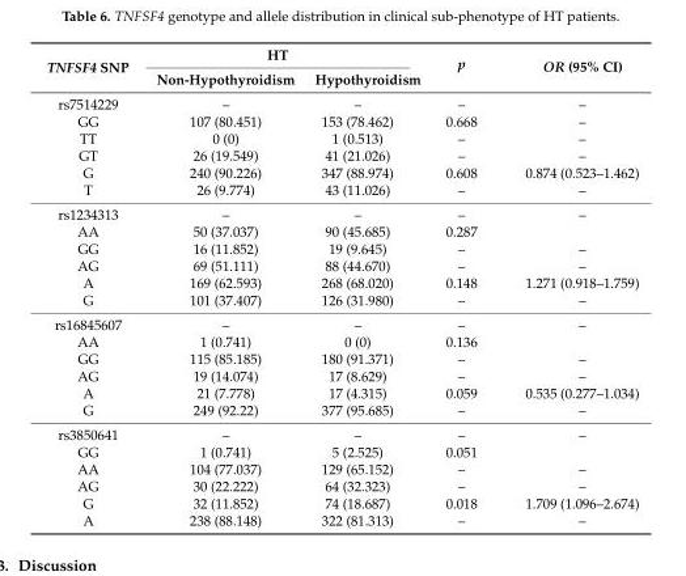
<table><thead><tr><td rowspan="2">TNFSF4 SNP</td><td colspan="2">HT</td><td rowspan="2">p</td><td rowspan="2">OR (95% CI)</td></tr><tr><td>Non-Hypothyroidism</td><td>Hypothyroidism</td></tr></thead><tbody><tr><td>rs7514229</td><td>–</td><td>–</td><td>–</td><td>–</td></tr><tr><td>GG</td><td>107 (80.451)</td><td>153 (78.462)</td><td>0.668</td><td>–</td></tr><tr><td>TT</td><td>0 (0)</td><td>1 (0.513)</td><td>–</td><td>–</td></tr><tr><td>GT</td><td>26 (19.549)</td><td>41 (21.026)</td><td>–</td><td>–</td></tr><tr><td>G</td><td>240 (90.226)</td><td>347 (88.974)</td><td>0.608</td><td>0.874 (0.523–1.462)</td></tr><tr><td>T</td><td>26 (9.774)</td><td>43 (11.026)</td><td>–</td><td>–</td></tr><tr><td>rs1234313</td><td>–</td><td>–</td><td>–</td><td>–</td></tr><tr><td>AA</td><td>50 (37.037)</td><td>90 (45.685)</td><td>0.287</td><td></td></tr><tr><td>GG</td><td>16 (11.852)</td><td>19 (9.645)</td><td>–</td><td>–</td></tr><tr><td>AG</td><td>69 (51.111)</td><td>88 (44.670)</td><td>–</td><td>–</td></tr><tr><td>A</td><td>169 (62.593)</td><td>268 (68.020)</td><td>0.148</td><td>1.271 (0.918–1.759)</td></tr><tr><td>G</td><td>101 (37.407)</td><td>126 (31.980)</td><td>–</td><td>–</td></tr><tr><td>rs16845607</td><td>–</td><td>–</td><td>–</td><td>–</td></tr><tr><td>AA</td><td>1 (0.741)</td><td>0 (0)</td><td>0.136</td><td></td></tr><tr><td>GG</td><td>115 (85.185)</td><td>180 (91.371)</td><td>–</td><td>–</td></tr><tr><td>AG</td><td>19 (14.074)</td><td>17 (8.629)</td><td>–</td><td>–</td></tr><tr><td>A</td><td>21 (7.778)</td><td>17 (4.315)</td><td>0.059</td><td>0.535 (0.277–1.034)</td></tr><tr><td>G</td><td>249 (92.22)</td><td>377 (95.685)</td><td>–</td><td>–</td></tr><tr><td>rs3850641</td><td>–</td><td>–</td><td>–</td><td>–</td></tr><tr><td>GG</td><td>1 (0.741)</td><td>5 (2.525)</td><td>0.051</td><td></td></tr><tr><td>AA</td><td>104 (77.037)</td><td>129 (65.152)</td><td>–</td><td>–</td></tr><tr><td>AG</td><td>30 (22.222)</td><td>64 (32.323)</td><td>–</td><td>–</td></tr><tr><td>G</td><td>32 (11.852)</td><td>74 (18.687)</td><td>0.018</td><td>1.709 (1.096–2.674)</td></tr><tr><td>A</td><td>238 (88.148)</td><td>322 (81.313)</td><td>–</td><td>–</td></tr></tbody></table>